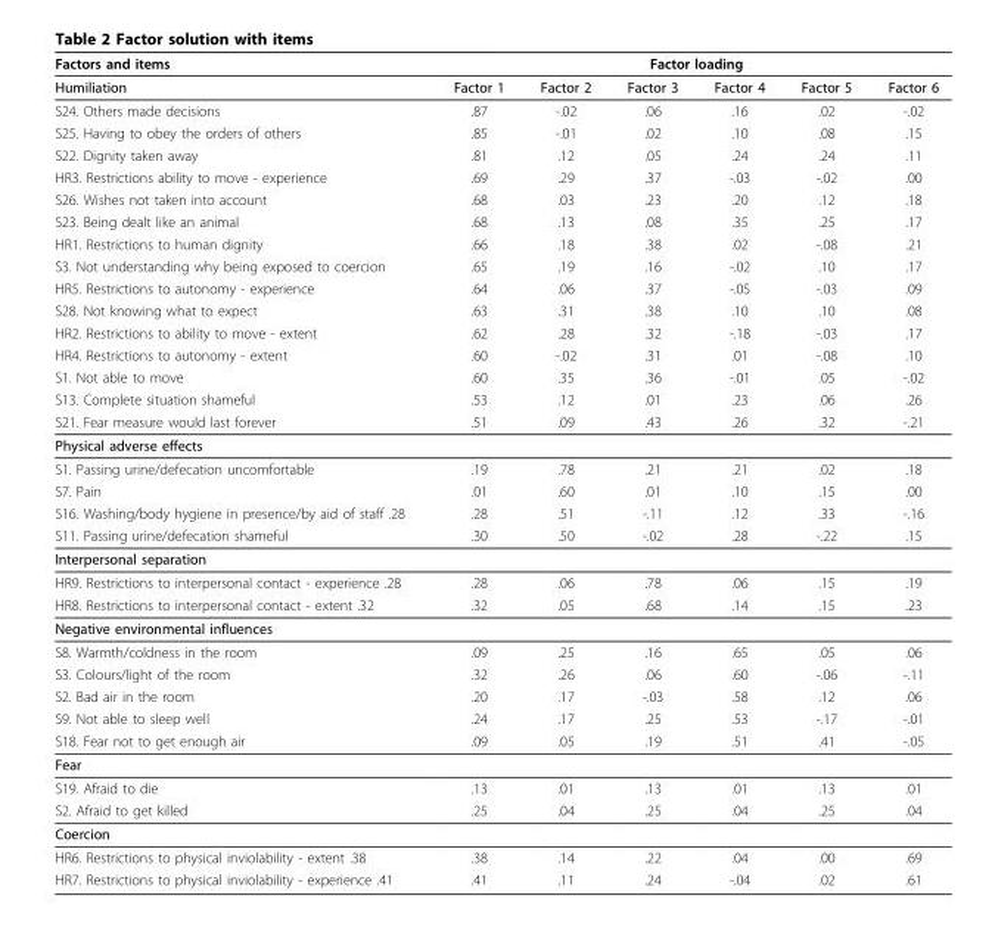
<table><thead><tr><td rowspan="2">Factors and items Humiliation</td><td colspan="6">Factor loading</td></tr><tr><td>Factor 1</td><td>Factor 2</td><td>Factor 3</td><td>Factor 4</td><td>Factor 5</td><td>Factor 6</td></tr></thead><tbody><tr><td>S24. Others made decisions</td><td>.87</td><td>-.02</td><td>.06</td><td>.16</td><td>.02</td><td>-.02</td></tr><tr><td>S25. Having to obey the orders of others</td><td>.85</td><td>-.01</td><td>.02</td><td>.10</td><td>.08</td><td>.15</td></tr><tr><td>S22. Dignity taken away</td><td>.81</td><td>.12</td><td>.05</td><td>.24</td><td>.24</td><td>.11</td></tr><tr><td>HR3. Restrictions ability to move - experience</td><td>.69</td><td>.29</td><td>.37</td><td>-.03</td><td>-.02</td><td>.00</td></tr><tr><td>S26. Wishes not taken into account</td><td>.68</td><td>.03</td><td>.23</td><td>.20</td><td>.12</td><td>.18</td></tr><tr><td>S23. Being dealt like an animal</td><td>.68</td><td>.13</td><td>.08</td><td>.35</td><td>.25</td><td>.17</td></tr><tr><td>HR1. Restrictions to human dignity</td><td>.66</td><td>.18</td><td>.38</td><td>.02</td><td>-.08</td><td>.21</td></tr><tr><td>S3. Not understanding why being exposed to coercion</td><td>.65</td><td>.19</td><td>.16</td><td>-.02</td><td>.10</td><td>.17</td></tr><tr><td>HR5. Restrictions to autonomy - experience</td><td>.64</td><td>.06</td><td>.37</td><td>-.05</td><td>-.03</td><td>.09</td></tr><tr><td>S28. Not knowing what to expect</td><td>.63</td><td>.31</td><td>.38</td><td>.10</td><td>.10</td><td>.08</td></tr><tr><td>HR2. Restrictions to ability to move - extent</td><td>.62</td><td>.28</td><td>.32</td><td>-.18</td><td>-.03</td><td>.17</td></tr><tr><td>HR4. Restrictions to autonomy - extent</td><td>.60</td><td>-.02</td><td>.31</td><td>.01</td><td>-.08</td><td>.10</td></tr><tr><td>S1. Not able to move</td><td>.60</td><td>.35</td><td>.36</td><td>-.01</td><td>.05</td><td>-.02</td></tr><tr><td>S13. Complete situation shameful</td><td>.53</td><td>.12</td><td>.01</td><td>.23</td><td>.06</td><td>.26</td></tr><tr><td>S21. Fear measure would last forever</td><td>.51</td><td>.09</td><td>.43</td><td>.26</td><td>.32</td><td>-.21</td></tr><tr><td colspan="7">Physical adverse effects</td></tr><tr><td>S1. Passing urine/defecation uncomfortable</td><td>.19</td><td>.78</td><td>.21</td><td>.21</td><td>.02</td><td>.18</td></tr><tr><td>S7. Pain</td><td>.01</td><td>.60</td><td>.01</td><td>.10</td><td>.15</td><td>.00</td></tr><tr><td>S16. Washing/body hygiene in presence/by aid of staff .28</td><td>.28</td><td>.51</td><td>-.11</td><td>.12</td><td>.33</td><td>-.16</td></tr><tr><td>S11. Passing urine/defecation shameful</td><td>.30</td><td>.50</td><td>-.02</td><td>.28</td><td>-.22</td><td>.15</td></tr><tr><td colspan="7">Interpersonal separation</td></tr><tr><td>HR9. Restrictions to interpersonal contact - experience .28</td><td>.28</td><td>.06</td><td>.78</td><td>.06</td><td>.15</td><td>.19</td></tr><tr><td>HR8. Restrictions to interpersonal contact - extent .32</td><td>.32</td><td>.05</td><td>.68</td><td>.14</td><td>.15</td><td>.23</td></tr><tr><td colspan="7">Negative environmental influences</td></tr><tr><td>S8. Warmth/coldness in the room</td><td>.09</td><td>.25</td><td>.16</td><td>.65</td><td>.05</td><td>.06</td></tr><tr><td>S3. Colours/light of the room</td><td>.32</td><td>.26</td><td>.06</td><td>.60</td><td>-.06</td><td>-.11</td></tr><tr><td>S2. Bad air in the room</td><td>.20</td><td>.17</td><td>-.03</td><td>.58</td><td>.12</td><td>.06</td></tr><tr><td>S9. Not able to sleep well</td><td>.24</td><td>.17</td><td>.25</td><td>.53</td><td>-.17</td><td>-.01</td></tr><tr><td>S18. Fear not to get enough air</td><td>.09</td><td>.05</td><td>.19</td><td>.51</td><td>.41</td><td>-.05</td></tr><tr><td colspan="7">Fear</td></tr><tr><td>S19. Afraid to die</td><td>.13</td><td>.01</td><td>.13</td><td>.01</td><td>.13</td><td>.01</td></tr><tr><td>S2. Afraid to get killed</td><td>.25</td><td>.04</td><td>.25</td><td>.04</td><td>.25</td><td>.04</td></tr><tr><td colspan="7">Coercion</td></tr><tr><td>HR6. Restrictions to physical inviolability - extent .38</td><td>.38</td><td>.14</td><td>.22</td><td>.04</td><td>.00</td><td>.69</td></tr><tr><td>HR7. Restrictions to physical inviolability - experience .41</td><td>.41</td><td>.11</td><td>.24</td><td>-.04</td><td>.02</td><td>.61</td></tr></tbody></table>